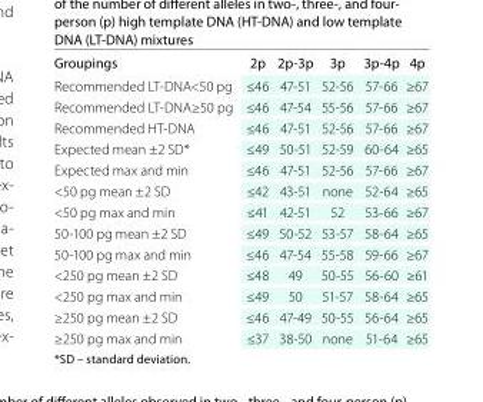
<table><thead><tr><td>Groupings</td><td>2p</td><td>2p-3p</td><td>3p</td><td>3p-4p</td><td>4p</td></tr></thead><tbody><tr><td>Recommended LT-DNA&lt;50 pg</td><td>≤46</td><td>47-51</td><td>52-56</td><td>57-66</td><td>≥67</td></tr><tr><td>Recommended LT-DNA≥50 pg</td><td>≤46</td><td>47-54</td><td>55-56</td><td>57-66</td><td>≥67</td></tr><tr><td>Recommended HT-DNA</td><td>≤46</td><td>47-51</td><td>52-56</td><td>57-66</td><td>≥67</td></tr><tr><td>Expected mean ±2 SD*</td><td>≤49</td><td>50-51</td><td>52-59</td><td>60-64</td><td>≥65</td></tr><tr><td>Expected max and min</td><td>≤46</td><td>47-51</td><td>52-56</td><td>57-66</td><td>≥67</td></tr><tr><td>&lt;50 pg mean ±2 SD</td><td>≤42</td><td>43-51</td><td>none</td><td>52-64</td><td>≥65</td></tr><tr><td>&lt;50 pg max and min</td><td>≤41</td><td>42-51</td><td>52</td><td>53-66</td><td>≥67</td></tr><tr><td>50-100 pg mean ±2 SD</td><td>≤49</td><td>50-52</td><td>53-57</td><td>58-64</td><td>≥65</td></tr><tr><td>50-100 pg max and min</td><td>≤46</td><td>47-54</td><td>55-58</td><td>59-66</td><td>≥67</td></tr><tr><td>&lt;250 pg mean ±2 SD</td><td>≤48</td><td>49</td><td>50-55</td><td>56-60</td><td>≥61</td></tr><tr><td>&lt;250 pg max and min</td><td>≤49</td><td>50</td><td>51-57</td><td>58-64</td><td>≥65</td></tr><tr><td>≥250 pg mean ±2 SD</td><td>≤46</td><td>47-49</td><td>50-55</td><td>56-64</td><td>≥65</td></tr><tr><td>≥250 pg max and min</td><td>≤37</td><td>38-50</td><td>none</td><td>51-64</td><td>≥65</td></tr></tbody></table>